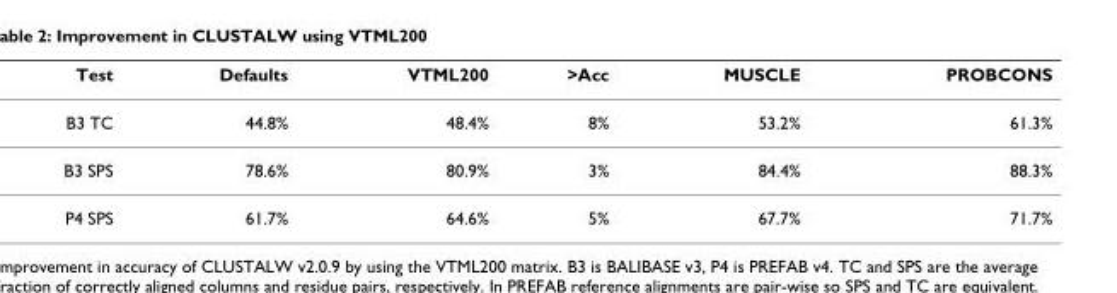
<table><thead><tr><td>Test</td><td>Defaults</td><td>VTML200</td><td>&gt;Acc</td><td>MUSCLE</td><td>PROBCONS</td></tr></thead><tbody><tr><td>B3 TC</td><td>44.8%</td><td>48.4%</td><td>8%</td><td>53.2%</td><td>61.3%</td></tr><tr><td>B3 SPS</td><td>78.6%</td><td>80.9%</td><td>3%</td><td>84.4%</td><td>88.3%</td></tr><tr><td>P4 SPS</td><td>61.7%</td><td>64.6%</td><td>5%</td><td>67.7%</td><td>71.7%</td></tr></tbody></table>